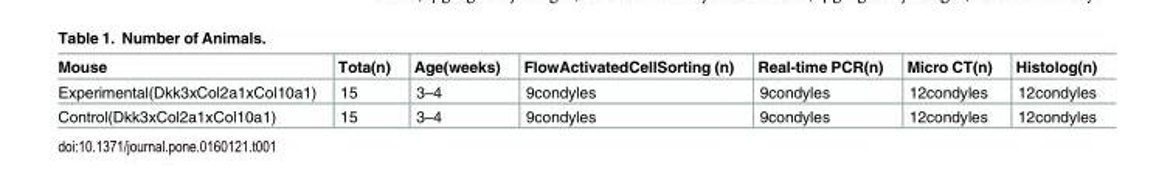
<table><thead><tr><td>Mouse</td><td>Tota(n)</td><td>Age(weeks)</td><td>FlowActivatedCellSorting (n)</td><td>Real-time PCR(n)</td><td>Micro CT(n)</td><td>Histolog(n)</td></tr></thead><tbody><tr><td>Experimental(Dkk3xCol2a1xCol10a1)</td><td>15</td><td>3–4</td><td>9condyles</td><td>9condyles</td><td>12condyles</td><td>12condyles</td></tr><tr><td>Control(Dkk3xCol2a1xCol10a1)</td><td>15</td><td>3–4</td><td>9condyles</td><td>9condyles</td><td>12condyles</td><td>12condyles</td></tr></tbody></table>